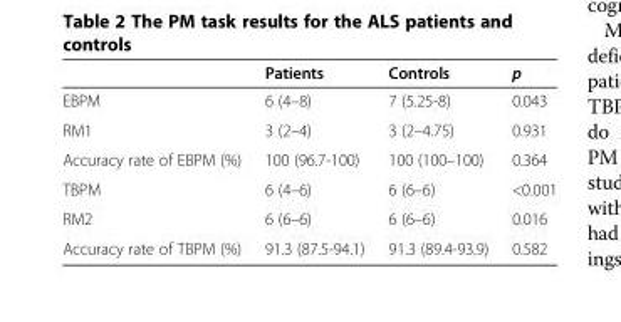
<table><thead><tr><td></td><td>Patients</td><td>Controls</td><td>p</td></tr></thead><tbody><tr><td>EBPM</td><td>6 (4–8)</td><td>7 (5.25-8)</td><td>0.043</td></tr><tr><td>RM1</td><td>3 (2–4)</td><td>3 (2–4.75)</td><td>0.931</td></tr><tr><td>Accuracy rate of EBPM (%)</td><td>100 (96.7-100)</td><td>100 (100–100)</td><td>0.364</td></tr><tr><td>TBPM</td><td>6 (4–6)</td><td>6 (6–6)</td><td>&lt;0.001</td></tr><tr><td>RM2</td><td>6 (6–6)</td><td>6 (6–6)</td><td>0.016</td></tr><tr><td>Accuracy rate of TBPM (%)</td><td>91.3 (87.5-94.1)</td><td>91.3 (89.4-93.9)</td><td>0.582</td></tr></tbody></table>